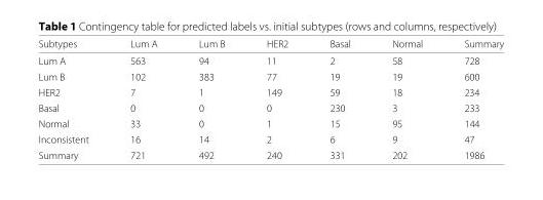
<table><thead><tr><td>Subtypes</td><td>Lum A</td><td>Lum B</td><td>HER2</td><td>Basal</td><td>Normal</td><td>Summary</td></tr></thead><tbody><tr><td>Lum A</td><td>563</td><td>94</td><td>11</td><td>2</td><td>58</td><td>728</td></tr><tr><td>Lum B</td><td>102</td><td>383</td><td>77</td><td>19</td><td>19</td><td>600</td></tr><tr><td>HER2</td><td>7</td><td>1</td><td>149</td><td>59</td><td>18</td><td>234</td></tr><tr><td>Basal</td><td>0</td><td>0</td><td>0</td><td>230</td><td>3</td><td>233</td></tr><tr><td>Normal</td><td>33</td><td>0</td><td>1</td><td>15</td><td>95</td><td>144</td></tr><tr><td>Inconsistent</td><td>16</td><td>14</td><td>2</td><td>6</td><td>9</td><td>47</td></tr><tr><td>Summary</td><td>721</td><td>492</td><td>240</td><td>331</td><td>202</td><td>1986</td></tr></tbody></table>